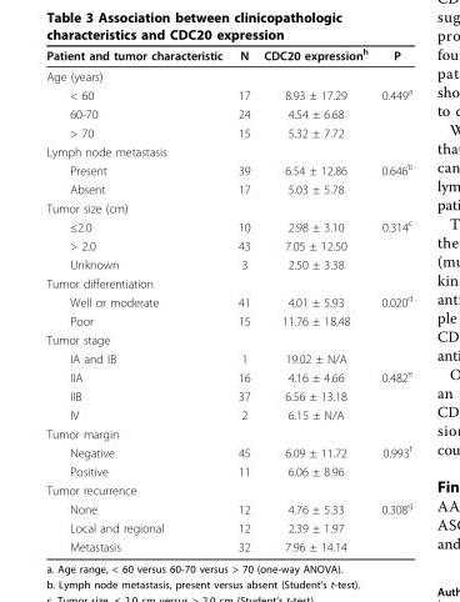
<table><thead><tr><td>Patient and tumor characteristic</td><td>N</td><td>CDC20 expression<sup>h</sup></td><td>P</td></tr></thead><tbody><tr><td colspan="4">Age (years)</td></tr><tr><td>&lt; 60</td><td>17</td><td>8.93 ± 17.29</td><td>0.449<sup>a</sup></td></tr><tr><td>60-70</td><td>24</td><td>4.54 ± 6.68</td><td></td></tr><tr><td>&gt; 70</td><td>15</td><td>5.32 ± 7.72</td><td></td></tr><tr><td colspan="4">Lymph node metastasis</td></tr><tr><td>Present</td><td>39</td><td>6.54 ± 12.86</td><td>0.646<sup>b</sup></td></tr><tr><td>Absent</td><td>17</td><td>5.03 ± 5.78</td><td></td></tr><tr><td colspan="4">Tumor size (cm)</td></tr><tr><td>≤2.0</td><td>10</td><td>2.98 ± 3.10</td><td>0.314<sup>c</sup></td></tr><tr><td>&gt; 2.0</td><td>43</td><td>7.05 ± 12.50</td><td></td></tr><tr><td>Unknown</td><td>3</td><td>2.50 ± 3.38</td><td></td></tr><tr><td colspan="4">Tumor differentiation</td></tr><tr><td>Well or moderate</td><td>41</td><td>4.01 ± 5.93</td><td>0.020<sup>d</sup></td></tr><tr><td>Poor</td><td>15</td><td>11.76 ± 18.48</td><td></td></tr><tr><td colspan="4">Tumor stage</td></tr><tr><td>IA and IB</td><td>1</td><td>19.02 ± N/A</td><td></td></tr><tr><td>IIA</td><td>16</td><td>4.16 ± 4.66</td><td>0.482<sup>e</sup></td></tr><tr><td>IIB</td><td>37</td><td>6.56 ± 13.18</td><td></td></tr><tr><td>IV</td><td>2</td><td>6.15 ± N/A</td><td></td></tr><tr><td colspan="4">Tumor margin</td></tr><tr><td>Negative</td><td>45</td><td>6.09 ± 11.72</td><td>0.993<sup>f</sup></td></tr><tr><td>Positive</td><td>11</td><td>6.06 ± 8.96</td><td></td></tr><tr><td colspan="4">Tumor recurrence</td></tr><tr><td>None</td><td>12</td><td>4.76 ± 5.33</td><td>0.308<sup>g</sup></td></tr><tr><td>Local and regional</td><td>12</td><td>2.39 ± 1.97</td><td></td></tr><tr><td>Metastasis</td><td>32</td><td>7.96 ± 14.14</td><td></td></tr></tbody></table>